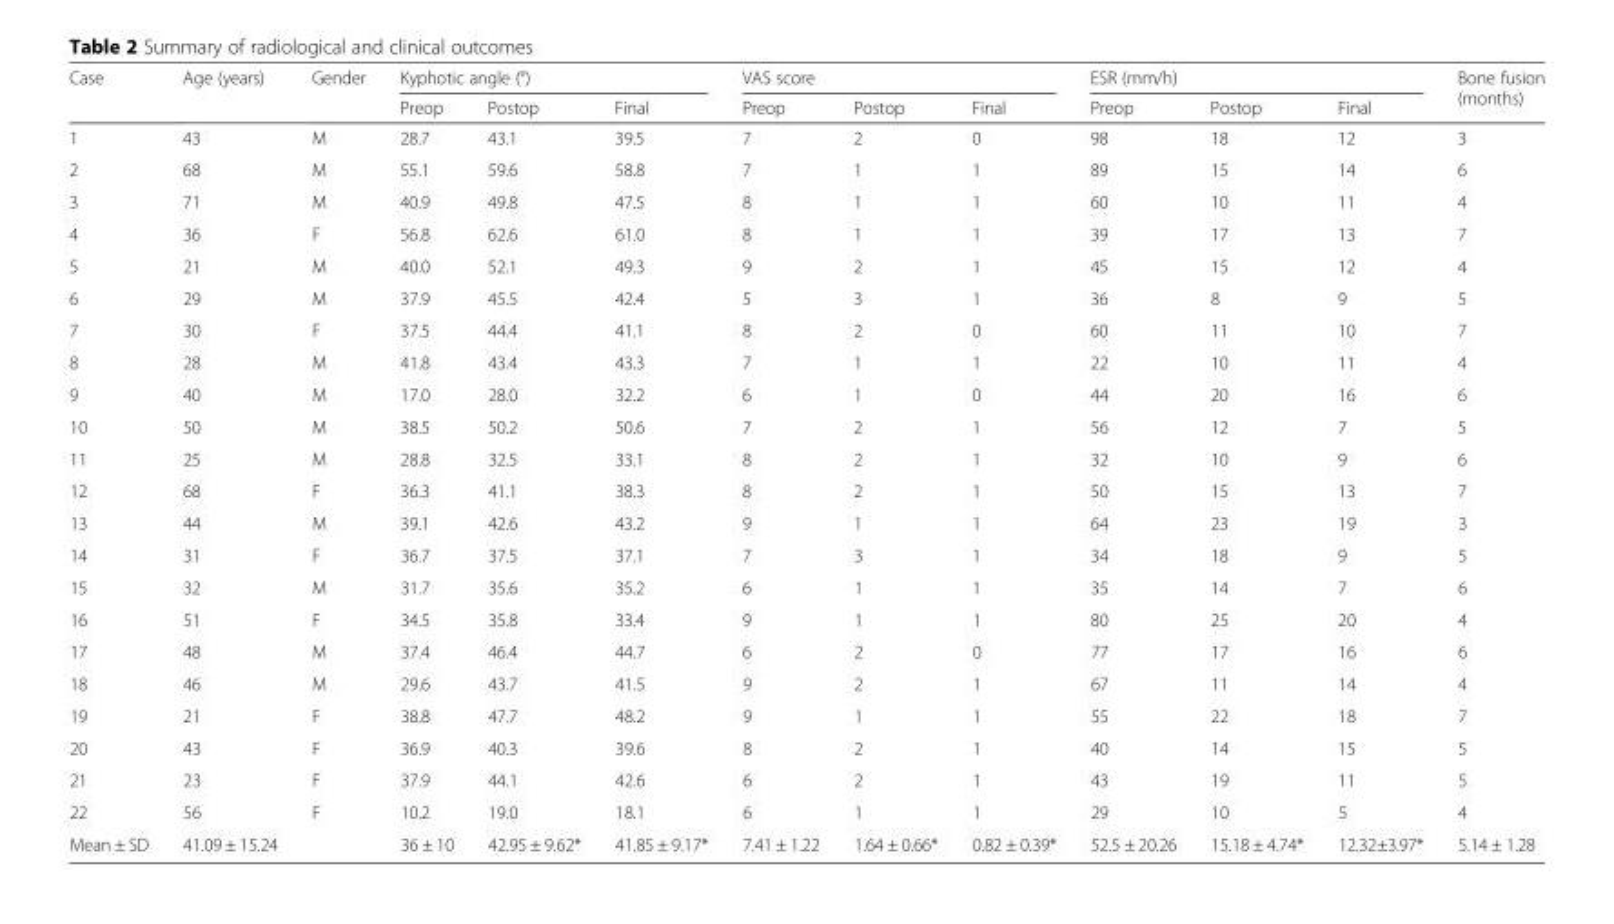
<table><thead><tr><td rowspan="2">Case</td><td rowspan="2">Age (years)</td><td rowspan="2">Gender</td><td colspan="3">Kyphotic angle (°)</td><td colspan="3">VAS score</td><td colspan="3">ESR (mm/h)</td><td rowspan="2">Bone fusion (months)</td></tr><tr><td>Preop</td><td>Postop</td><td>Final</td><td>Preop</td><td>Postop</td><td>Final</td><td>Preop</td><td>Postop</td><td>Final</td></tr></thead><tbody><tr><td>1</td><td>43</td><td>M</td><td>28.7</td><td>43.1</td><td>39.5</td><td>7</td><td>2</td><td>0</td><td>98</td><td>18</td><td>12</td><td>3</td></tr><tr><td>2</td><td>68</td><td>M</td><td>55.1</td><td>59.6</td><td>58.8</td><td>7</td><td>1</td><td>1</td><td>89</td><td>15</td><td>14</td><td>6</td></tr><tr><td>3</td><td>71</td><td>M</td><td>40.9</td><td>49.8</td><td>47.5</td><td>8</td><td>1</td><td>1</td><td>60</td><td>10</td><td>11</td><td>4</td></tr><tr><td>4</td><td>36</td><td>F</td><td>56.8</td><td>62.6</td><td>61.0</td><td>8</td><td>1</td><td>1</td><td>39</td><td>17</td><td>13</td><td>7</td></tr><tr><td>5</td><td>21</td><td>M</td><td>40.0</td><td>52.1</td><td>49.3</td><td>9</td><td>2</td><td>1</td><td>45</td><td>15</td><td>12</td><td>4</td></tr><tr><td>6</td><td>29</td><td>M</td><td>37.9</td><td>45.5</td><td>42.4</td><td>5</td><td>3</td><td>1</td><td>36</td><td>8</td><td>9</td><td>5</td></tr><tr><td>7</td><td>30</td><td>F</td><td>37.5</td><td>44.4</td><td>41.1</td><td>8</td><td>2</td><td>0</td><td>60</td><td>11</td><td>10</td><td>7</td></tr><tr><td>8</td><td>28</td><td>M</td><td>41.8</td><td>43.4</td><td>43.3</td><td>7</td><td>1</td><td>1</td><td>22</td><td>10</td><td>11</td><td>4</td></tr><tr><td>9</td><td>40</td><td>M</td><td>17.0</td><td>28.0</td><td>32.2</td><td>6</td><td>1</td><td>0</td><td>44</td><td>20</td><td>16</td><td>6</td></tr><tr><td>10</td><td>50</td><td>M</td><td>38.5</td><td>50.2</td><td>50.6</td><td>7</td><td>2</td><td>1</td><td>56</td><td>12</td><td>7</td><td>5</td></tr><tr><td>11</td><td>25</td><td>M</td><td>28.8</td><td>32.5</td><td>33.1</td><td>8</td><td>2</td><td>1</td><td>32</td><td>10</td><td>9</td><td>6</td></tr><tr><td>12</td><td>68</td><td>F</td><td>36.3</td><td>41.1</td><td>38.3</td><td>8</td><td>2</td><td>1</td><td>50</td><td>15</td><td>13</td><td>7</td></tr><tr><td>13</td><td>44</td><td>M</td><td>39.1</td><td>42.6</td><td>43.2</td><td>9</td><td>1</td><td>1</td><td>64</td><td>23</td><td>19</td><td>3</td></tr><tr><td>14</td><td>31</td><td>F</td><td>36.7</td><td>37.5</td><td>37.1</td><td>7</td><td>3</td><td>1</td><td>34</td><td>18</td><td>9</td><td>5</td></tr><tr><td>15</td><td>32</td><td>M</td><td>31.7</td><td>35.6</td><td>35.2</td><td>6</td><td>1</td><td>1</td><td>35</td><td>14</td><td>7</td><td>6</td></tr><tr><td>16</td><td>51</td><td>F</td><td>34.5</td><td>35.8</td><td>33.4</td><td>9</td><td>1</td><td>1</td><td>80</td><td>25</td><td>20</td><td>4</td></tr><tr><td>17</td><td>48</td><td>M</td><td>37.4</td><td>46.4</td><td>44.7</td><td>6</td><td>2</td><td>0</td><td>77</td><td>17</td><td>16</td><td>6</td></tr><tr><td>18</td><td>46</td><td>M</td><td>29.6</td><td>43.7</td><td>41.5</td><td>9</td><td>2</td><td>1</td><td>67</td><td>11</td><td>14</td><td>4</td></tr><tr><td>19</td><td>21</td><td>F</td><td>38.8</td><td>47.7</td><td>48.2</td><td>9</td><td>1</td><td>1</td><td>55</td><td>22</td><td>18</td><td>7</td></tr><tr><td>20</td><td>43</td><td>F</td><td>36.9</td><td>40.3</td><td>39.6</td><td>8</td><td>2</td><td>1</td><td>40</td><td>14</td><td>15</td><td>5</td></tr><tr><td>21</td><td>23</td><td>F</td><td>37.9</td><td>44.1</td><td>42.6</td><td>6</td><td>2</td><td>1</td><td>43</td><td>19</td><td>11</td><td>5</td></tr><tr><td>22</td><td>56</td><td>F</td><td>10.2</td><td>19.0</td><td>18.1</td><td>6</td><td>1</td><td>1</td><td>29</td><td>10</td><td>5</td><td>4</td></tr><tr><td>Mean ± SD</td><td>41.09 ± 15.24</td><td></td><td>36 ± 10</td><td>42.95 ± 9.62*</td><td>41.85 ± 9.17*</td><td>7.41 ± 1.22</td><td>1.64 ± 0.66*</td><td>0.82 ± 0.39*</td><td>52.5 ± 20.26</td><td>15.18 ± 4.74*</td><td>12.32±3.97*</td><td>5.14 ± 1.28</td></tr></tbody></table>